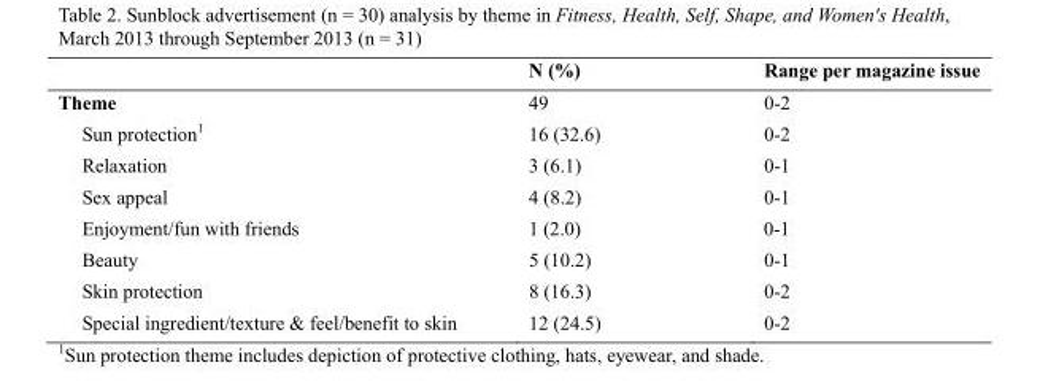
<table><thead><tr><td></td><td>N (%)</td><td>Range per magazine issue</td></tr></thead><tbody><tr><td>Theme</td><td>49</td><td>0-2</td></tr><tr><td>Sun protection<sup>1</sup></td><td>16 (32.6)</td><td>0-2</td></tr><tr><td>Relaxation</td><td>3 (6.1)</td><td>0-1</td></tr><tr><td>Sex appeal</td><td>4 (8.2)</td><td>0-1</td></tr><tr><td>Enjoyment/fun with friends</td><td>1 (2.0)</td><td>0-1</td></tr><tr><td>Beauty</td><td>5 (10.2)</td><td>0-1</td></tr><tr><td>Skin protection</td><td>8 (16.3)</td><td>0-2</td></tr><tr><td>Special ingredient/texture &amp; feel/benefit to skin</td><td>12 (24.5)</td><td>0-2</td></tr></tbody></table>